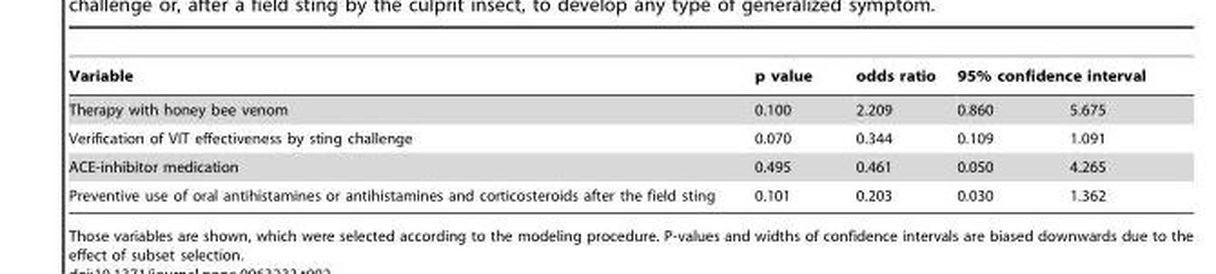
<table><thead><tr><td rowspan="2">Variable Therapy with honey bee venom</td><td rowspan="2">p value 0.100</td><td rowspan="2">odds ratio 2.209</td><td colspan="2">95% confidence interval</td></tr><tr><td>0.860</td><td>5.675</td></tr></thead><tbody><tr><td>Verification of VIT effectiveness by sting challenge</td><td>0.070</td><td>0.344</td><td>0.109</td><td>1.091</td></tr><tr><td>ACE-inhibitor medication</td><td>0.495</td><td>0.461</td><td>0.050</td><td>4.265</td></tr><tr><td>Preventive use of oral antihistamines or antihistamines and corticosteroids after the field sting</td><td>0.101</td><td>0.203</td><td>0.030</td><td>1.362</td></tr></tbody></table>